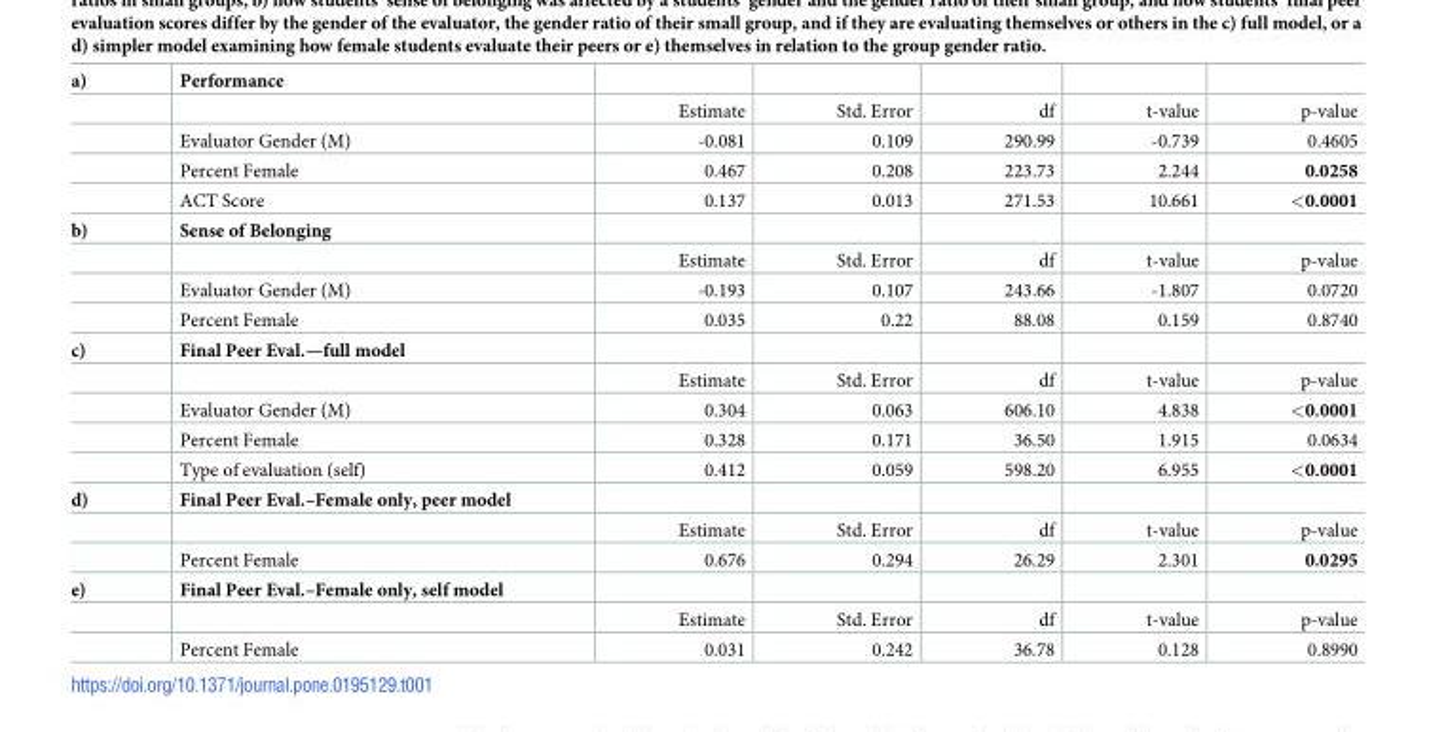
<table><tbody><tr><td rowspan="5">a)</td><td>Performance</td><td></td><td></td><td></td><td></td><td></td></tr><tr><td></td><td>Estimate</td><td>Std. Error</td><td>df</td><td>t-value</td><td>p-value</td></tr><tr><td>Evaluator Gender (M)</td><td>-0.081</td><td>0.109</td><td>290.99</td><td>-0.739</td><td>0.4605</td></tr><tr><td>Percent Female</td><td>0.467</td><td>0.208</td><td>223.73</td><td>2.244</td><td>0.0258</td></tr><tr><td>ACT Score</td><td>0.137</td><td>0.013</td><td>271.53</td><td>10.661</td><td>&lt;0.0001</td></tr><tr><td rowspan="4">b)</td><td>Sense of Belonging</td><td></td><td></td><td></td><td></td><td></td></tr><tr><td></td><td>Estimate</td><td>Std. Error</td><td>df</td><td>t-value</td><td>p-value</td></tr><tr><td>Evaluator Gender (M)</td><td>-0.193</td><td>0.107</td><td>243.66</td><td>-1.807</td><td>0.0720</td></tr><tr><td>Percent Female</td><td>0.035</td><td>0.22</td><td>88.08</td><td>0.159</td><td>0.8740</td></tr><tr><td rowspan="5">c)</td><td>Final Peer Eval.—full model</td><td></td><td></td><td></td><td></td><td></td></tr><tr><td></td><td>Estimate</td><td>Std. Error</td><td>df</td><td>t-value</td><td>p-value</td></tr><tr><td>Evaluator Gender (M)</td><td>0.304</td><td>0.063</td><td>606.10</td><td>4.838</td><td>&lt;0.0001</td></tr><tr><td>Percent Female</td><td>0.328</td><td>0.171</td><td>36.50</td><td>1.915</td><td>0.0634</td></tr><tr><td>Type of evaluation (self)</td><td>0.412</td><td>0.059</td><td>598.20</td><td>6.955</td><td>&lt;0.0001</td></tr><tr><td rowspan="3">d)</td><td>Final Peer Eval.–Female only, peer model</td><td></td><td></td><td></td><td></td><td></td></tr><tr><td></td><td>Estimate</td><td>Std. Error</td><td>df</td><td>t-value</td><td>p-value</td></tr><tr><td>Percent Female</td><td>0.676</td><td>0.294</td><td>26.29</td><td>2.301</td><td>0.0295</td></tr><tr><td rowspan="3">e)</td><td>Final Peer Eval.–Female only, self model</td><td></td><td></td><td></td><td></td><td></td></tr><tr><td></td><td>Estimate</td><td>Std. Error</td><td>df</td><td>t-value</td><td>p-value</td></tr><tr><td>Percent Female</td><td>0.031</td><td>0.242</td><td>36.78</td><td>0.128</td><td>0.8990</td></tr></tbody></table>